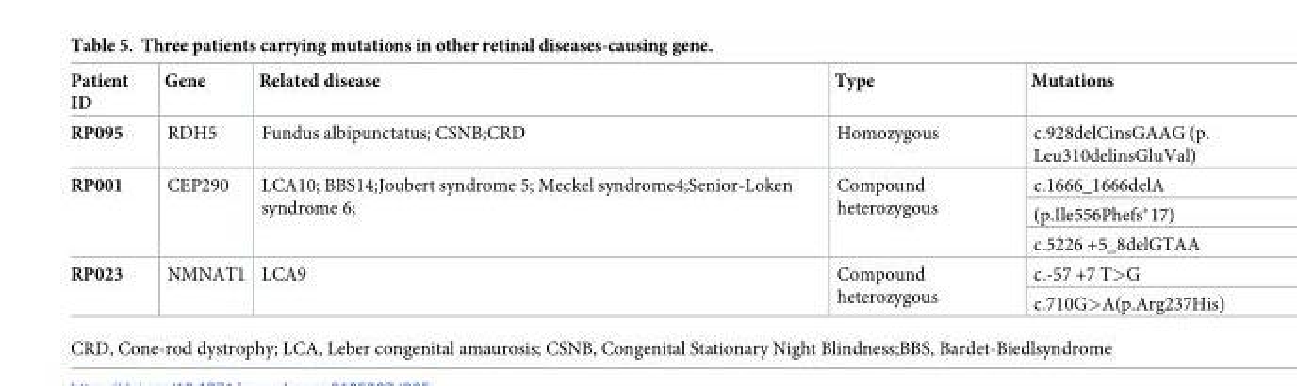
<table><thead><tr><td>Patient ID</td><td>Gene</td><td>Related disease</td><td>Type</td><td>Mutations</td></tr></thead><tbody><tr><td>RP095</td><td>RDH5</td><td>Fundus albipunctatus; CSNB;CRD</td><td>Homozygous</td><td>c.928delCinsGAAG (p. Leu310delinsGluVal)</td></tr><tr><td rowspan="3">RP001</td><td rowspan="3">CEP290</td><td rowspan="3">LCA10; BBS14;Joubert syndrome 5; Meckel syndrome4;Senior-Loken syndrome 6;</td><td rowspan="3">Compound heterozygous</td><td>c.1666_1666delA</td></tr><tr><td>(p.Ile556Phefs*17)</td></tr><tr><td>c.5226 +5_8delGTAA</td></tr><tr><td rowspan="2">RP023</td><td rowspan="2">NMNAT1</td><td rowspan="2">LCA9</td><td rowspan="2">Compound heterozygous</td><td>c.-57 +7 T&gt;G</td></tr><tr><td>c.710G&gt;A(p.Arg237His)</td></tr></tbody></table>